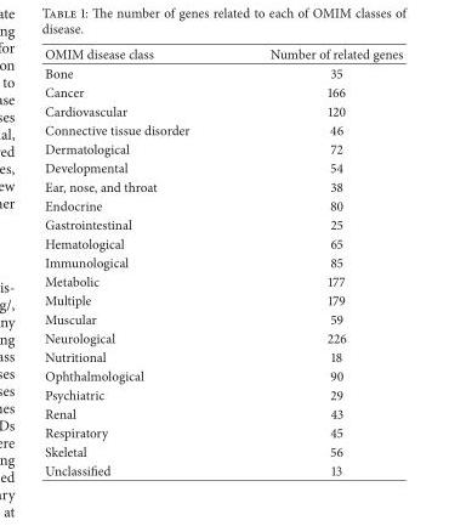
<table><thead><tr><td>OMIM disease class</td><td>Number of related genes</td></tr></thead><tbody><tr><td>Bone</td><td>35</td></tr><tr><td>Cancer</td><td>166</td></tr><tr><td>Cardiovascular</td><td>120</td></tr><tr><td>Connective tissue disorder</td><td>46</td></tr><tr><td>Dermatological</td><td>72</td></tr><tr><td>Developmental</td><td>54</td></tr><tr><td>Ear, nose, and throat</td><td>38</td></tr><tr><td>Endocrine</td><td>80</td></tr><tr><td>Gastrointestinal</td><td>25</td></tr><tr><td>Hematological</td><td>65</td></tr><tr><td>Immunological</td><td>85</td></tr><tr><td>Metabolic</td><td>177</td></tr><tr><td>Multiple</td><td>179</td></tr><tr><td>Muscular</td><td>59</td></tr><tr><td>Neurological</td><td>226</td></tr><tr><td>Nutritional</td><td>18</td></tr><tr><td>Ophthalmological</td><td>90</td></tr><tr><td>Psychiatric</td><td>29</td></tr><tr><td>Renal</td><td>43</td></tr><tr><td>Respiratory</td><td>45</td></tr><tr><td>Skeletal</td><td>56</td></tr><tr><td>Unclassified</td><td>13</td></tr></tbody></table>